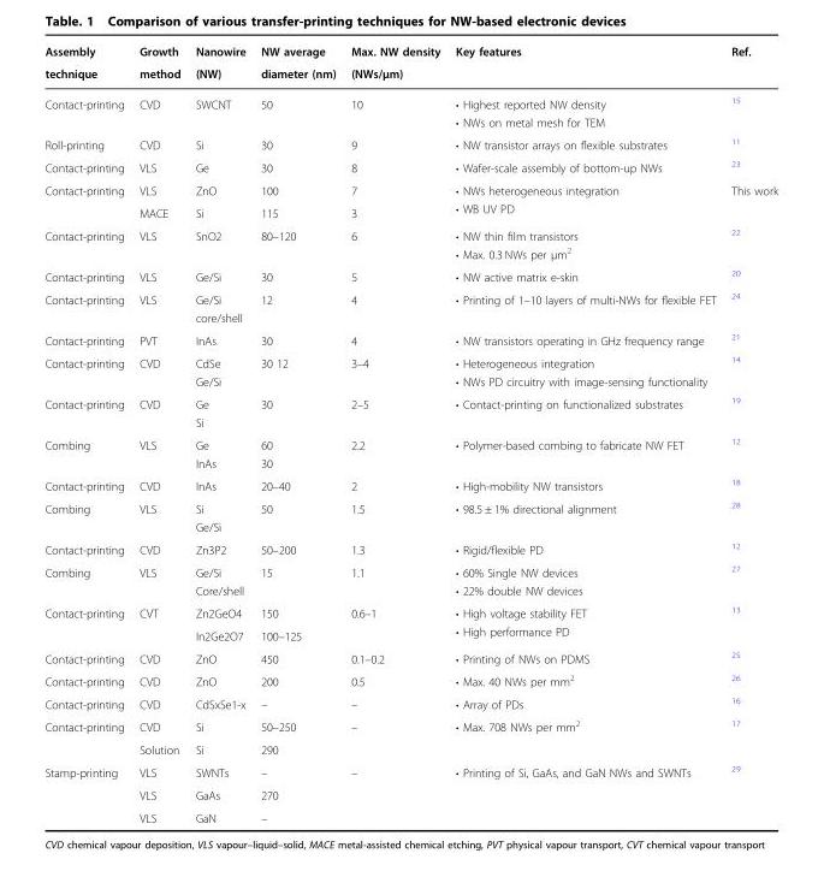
<table><thead><tr><td rowspan="2">Assembly technique</td><td rowspan="2">Growth method</td><td rowspan="2">Nanowire (NW)</td><td rowspan="2">NW average diameter (nm)</td><td rowspan="2">Max. NW density (NWs/μm)</td><td rowspan="2">Key features</td><td rowspan="2">Ref.</td></tr><tr></tr></thead><tbody><tr><td>Contact-printing</td><td>CVD</td><td>SWCNT</td><td>50</td><td>10</td><td>• Highest reported NW density • NWs on metal mesh for TEM</td><td><sup>15</sup></td></tr><tr><td>Roll-printing</td><td>CVD</td><td>Si</td><td>30</td><td>9</td><td>• NW transistor arrays on flexible substrates</td><td><sup>11</sup></td></tr><tr><td>Contact-printing</td><td>VLS</td><td>Ge</td><td>30</td><td>8</td><td>• Wafer-scale assembly of bottom-up NWs</td><td><sup>23</sup></td></tr><tr><td rowspan="2">Contact-printing</td><td>VLS</td><td>ZnO</td><td>100</td><td>7</td><td rowspan="2">• NWs heterogeneous integration • WB UV PD</td><td rowspan="2">This work</td></tr><tr><td>MACE</td><td>Si</td><td>115</td><td>3</td></tr><tr><td>Contact-printing</td><td>VLS</td><td>SnO2</td><td>80–120</td><td>6</td><td>• NW thin film transistors • Max. 0.3 NWs per μm<sup>2</sup></td><td><sup>22</sup></td></tr><tr><td>Contact-printing</td><td>VLS</td><td>Ge/Si</td><td>30</td><td>5</td><td>• NW active matrix e-skin</td><td><sup>20</sup></td></tr><tr><td>Contact-printing</td><td>VLS</td><td>Ge/Si core/shell</td><td>12</td><td>4</td><td>• Printing of 1–10 layers of multi-NWs for flexible FET</td><td><sup>24</sup></td></tr><tr><td>Contact-printing</td><td>PVT</td><td>InAs</td><td>30</td><td>4</td><td>• NW transistors operating in GHz frequency range</td><td><sup>21</sup></td></tr><tr><td>Contact-printing</td><td>CVD</td><td>CdSe Ge/Si</td><td>30 12</td><td>3–4</td><td>• Heterogeneous integration • NWs PD circuitry with image-sensing functionality</td><td><sup>14</sup></td></tr><tr><td>Contact-printing</td><td>CVD</td><td>Ge Si</td><td>30</td><td>2–5</td><td>• Contact-printing on functionalized substrates</td><td><sup>19</sup></td></tr><tr><td>Combing</td><td>VLS</td><td>Ge InAs</td><td>60 30</td><td>2.2</td><td>• Polymer-based combing to fabricate NW FET</td><td><sup>12</sup></td></tr><tr><td>Contact-printing</td><td>CVD</td><td>InAs</td><td>20–40</td><td>2</td><td>• High-mobility NW transistors</td><td><sup>18</sup></td></tr><tr><td>Combing</td><td>VLS</td><td>Si Ge/Si</td><td>50</td><td>1.5</td><td>• 98.5 ± 1% directional alignment</td><td><sup>28</sup></td></tr><tr><td>Contact-printing</td><td>CVD</td><td>Zn3P2</td><td>50–200</td><td>1.3</td><td>• Rigid/flexible PD</td><td><sup>12</sup></td></tr><tr><td>Combing</td><td>VLS</td><td>Ge/Si Core/shell</td><td>15</td><td>1.1</td><td>• 60% Single NW devices • 22% double NW devices</td><td><sup>27</sup></td></tr><tr><td rowspan="2">Contact-printing</td><td rowspan="2">CVT</td><td>Zn2GeO4</td><td>150</td><td rowspan="2">0.6–1</td><td rowspan="2">• High voltage stability FET • High performance PD</td><td rowspan="2"><sup>13</sup></td></tr><tr><td>In2Ge2O7</td><td>100–125</td></tr><tr><td>Contact-printing</td><td>CVD</td><td>ZnO</td><td>450</td><td>0.1–0.2</td><td>• Printing of NWs on PDMS</td><td><sup>25</sup></td></tr><tr><td>Contact-printing</td><td>CVD</td><td>ZnO</td><td>200</td><td>0.5</td><td>• Max. 40 NWs per mm<sup>2</sup></td><td><sup>26</sup></td></tr><tr><td>Contact-printing</td><td>CVD</td><td>CdSxSe1-x</td><td>–</td><td>–</td><td>• Array of PDs</td><td><sup>16</sup></td></tr><tr><td rowspan="2">Contact-printing</td><td>CVD</td><td>Si</td><td>50–250</td><td>–</td><td>• Max. 708 NWs per mm<sup>2</sup></td><td><sup>17</sup></td></tr><tr><td>Solution</td><td>Si</td><td>290</td><td></td><td></td><td></td></tr><tr><td rowspan="3">Stamp-printing</td><td>VLS</td><td>SWNTs</td><td>–</td><td rowspan="3">–</td><td rowspan="3">• Printing of Si, GaAs, and GaN NWs and SWNTs</td><td rowspan="3"><sup>29</sup></td></tr><tr><td>VLS</td><td>GaAs</td><td>270</td></tr><tr><td>VLS</td><td>GaN</td><td>–</td></tr></tbody></table>